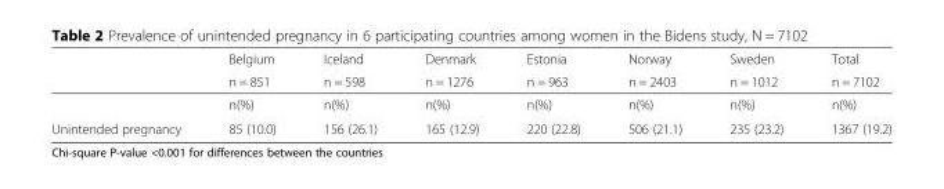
<table><thead><tr><td rowspan="2"></td><td rowspan="2">Belgium n = 851</td><td rowspan="2">Iceland n = 598</td><td rowspan="2">Denmark n = 1276</td><td rowspan="2">Estonia n = 963</td><td rowspan="2">Norway n = 2403</td><td rowspan="2">Sweden n = 1012</td><td rowspan="2">Total n = 7102</td></tr><tr></tr></thead><tbody><tr><td></td><td>n(%)</td><td>n(%)</td><td>n(%)</td><td>n(%)</td><td>n(%)</td><td>n(%)</td><td>n(%)</td></tr><tr><td>Unintended pregnancy</td><td>85 (10.0)</td><td>156 (26.1)</td><td>165 (12.9)</td><td>220 (22.8)</td><td>506 (21.1)</td><td>235 (23.2)</td><td>1367 (19.2)</td></tr></tbody></table>